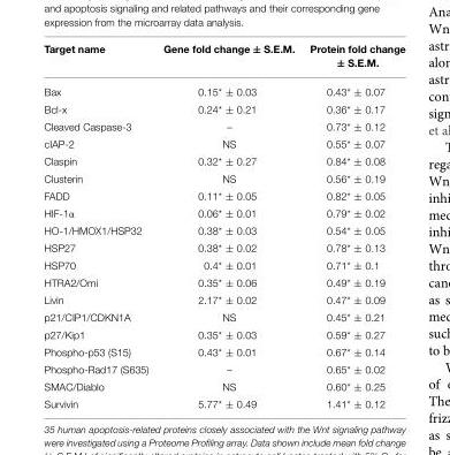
<table><thead><tr><td>Target name</td><td>Gene fold change ± S.E.M.</td><td>Protein fold change ± S.E.M.</td></tr></thead><tbody><tr><td>Bax</td><td>0.15* ± 0.03</td><td>0.43* ± 0.07</td></tr><tr><td>Bcl-x</td><td>0.24* ± 0.21</td><td>0.36* ± 0.17</td></tr><tr><td>Cleaved Caspase-3</td><td>–</td><td>0.73* ± 0.12</td></tr><tr><td>cIAP-2</td><td>NS</td><td>0.55* ± 0.07</td></tr><tr><td>Claspin</td><td>0.32* ± 0.27</td><td>0.84* ± 0.08</td></tr><tr><td>Clusterin</td><td>NS</td><td>0.56* ± 0.19</td></tr><tr><td>FADD</td><td>0.11* ± 0.05</td><td>0.82* ± 0.05</td></tr><tr><td>HIF-1α</td><td>0.06* ± 0.01</td><td>0.79* ± 0.02</td></tr><tr><td>HO-1/HMOX1/HSP32</td><td>0.38* ± 0.03</td><td>0.54* ± 0.05</td></tr><tr><td>HSP27</td><td>0.38* ± 0.02</td><td>0.78* ± 0.13</td></tr><tr><td>HSP70</td><td>0.4* ± 0.01</td><td>0.71* ± 0.1</td></tr><tr><td>HTRA2/Omi</td><td>0.35* ± 0.06</td><td>0.49* ± 0.19</td></tr><tr><td>Livin</td><td>2.17* ± 0.02</td><td>0.47* ± 0.09</td></tr><tr><td>p21/CIP1/CDKN1A</td><td>NS</td><td>0.45* ± 0.21</td></tr><tr><td>p27/Kip1</td><td>0.35* ± 0.03</td><td>0.59* ± 0.27</td></tr><tr><td>Phospho-p53 (S15)</td><td>0.43* ± 0.01</td><td>0.67* ± 0.14</td></tr><tr><td>Phospho-Rad17 (S635)</td><td>–</td><td>0.65* ± 0.02</td></tr><tr><td>SMAC/Diablo</td><td>NS</td><td>0.60* ± 0.25</td></tr><tr><td>Survivin</td><td>5.77* ± 0.49</td><td>1.41* ± 0.12</td></tr></tbody></table>